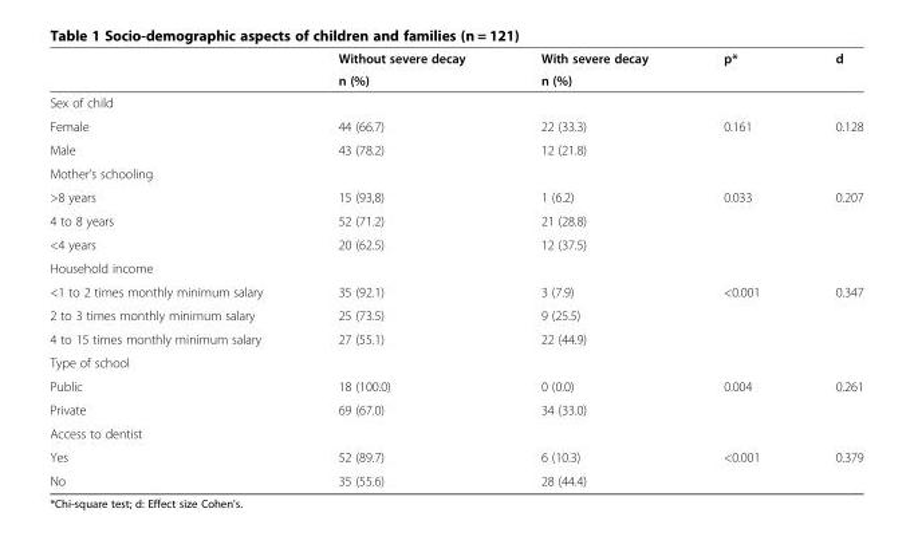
<table><thead><tr><td rowspan="2"></td><td rowspan="2">Without severe decay n (%)</td><td rowspan="2">With severe decay n (%)</td><td rowspan="2">p*</td><td rowspan="2">d</td></tr><tr></tr></thead><tbody><tr><td colspan="5">Sex of child</td></tr><tr><td>Female</td><td>44 (66.7)</td><td>22 (33.3)</td><td>0.161</td><td>0.128</td></tr><tr><td>Male</td><td>43 (78.2)</td><td>12 (21.8)</td><td></td><td></td></tr><tr><td colspan="5">Mother’s schooling</td></tr><tr><td>&gt;8 years</td><td>15 (93,8)</td><td>1 (6.2)</td><td>0.033</td><td>0.207</td></tr><tr><td>4 to 8 years</td><td>52 (71.2)</td><td>21 (28.8)</td><td></td><td></td></tr><tr><td>&lt;4 years</td><td>20 (62.5)</td><td>12 (37.5)</td><td></td><td></td></tr><tr><td colspan="5">Household income</td></tr><tr><td>&lt;1 to 2 times monthly minimum salary</td><td>35 (92.1)</td><td>3 (7.9)</td><td>&lt;0.001</td><td>0.347</td></tr><tr><td>2 to 3 times monthly minimum salary</td><td>25 (73.5)</td><td>9 (25.5)</td><td></td><td></td></tr><tr><td>4 to 15 times monthly minimum salary</td><td>27 (55.1)</td><td>22 (44.9)</td><td></td><td></td></tr><tr><td colspan="5">Type of school</td></tr><tr><td>Public</td><td>18 (100.0)</td><td>0 (0.0)</td><td>0.004</td><td>0.261</td></tr><tr><td>Private</td><td>69 (67.0)</td><td>34 (33.0)</td><td></td><td></td></tr><tr><td colspan="5">Access to dentist</td></tr><tr><td>Yes</td><td>52 (89.7)</td><td>6 (10.3)</td><td>&lt;0.001</td><td>0.379</td></tr><tr><td>No</td><td>35 (55.6)</td><td>28 (44.4)</td><td></td><td></td></tr></tbody></table>